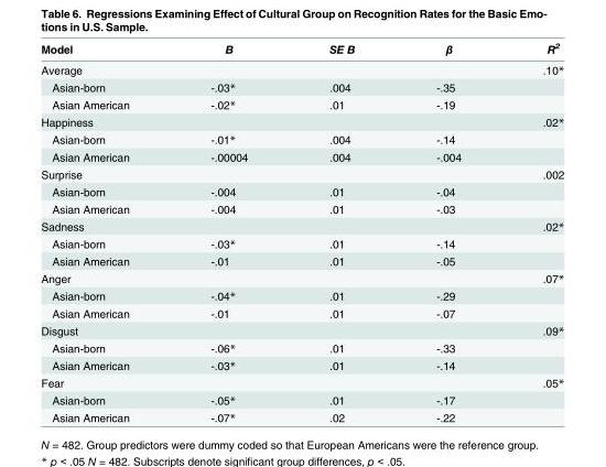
<table><thead><tr><td>Model</td><td>B</td><td>SE B</td><td>β</td><td>R<sup>2</sup></td></tr></thead><tbody><tr><td>Average</td><td></td><td></td><td></td><td>.10*</td></tr><tr><td>Asian-born</td><td>-.03*</td><td>.004</td><td>-.35</td><td></td></tr><tr><td>Asian American</td><td>-.02*</td><td>.01</td><td>-.19</td><td></td></tr><tr><td>Happiness</td><td></td><td></td><td></td><td>.02*</td></tr><tr><td>Asian-born</td><td>-.01*</td><td>.004</td><td>-.14</td><td></td></tr><tr><td>Asian American</td><td>-.00004</td><td>.004</td><td>-.004</td><td></td></tr><tr><td>Surprise</td><td></td><td></td><td></td><td>.002</td></tr><tr><td>Asian-born</td><td>-.004</td><td>.01</td><td>-.04</td><td></td></tr><tr><td>Asian American</td><td>-.004</td><td>.01</td><td>-.03</td><td></td></tr><tr><td>Sadness</td><td></td><td></td><td></td><td>.02*</td></tr><tr><td>Asian-born</td><td>-.03*</td><td>.01</td><td>-.14</td><td></td></tr><tr><td>Asian American</td><td>-.01</td><td>.01</td><td>-.05</td><td></td></tr><tr><td>Anger</td><td></td><td></td><td></td><td>.07*</td></tr><tr><td>Asian-born</td><td>-.04*</td><td>.01</td><td>-.29</td><td></td></tr><tr><td>Asian American</td><td>-.01</td><td>.01</td><td>-.07</td><td></td></tr><tr><td>Disgust</td><td></td><td></td><td></td><td>.09*</td></tr><tr><td>Asian-born</td><td>-.06*</td><td>.01</td><td>-.33</td><td></td></tr><tr><td>Asian American</td><td>-.03*</td><td>.01</td><td>-.14</td><td></td></tr><tr><td>Fear</td><td></td><td></td><td></td><td>.05*</td></tr><tr><td>Asian-born</td><td>-.05*</td><td>.01</td><td>-.17</td><td></td></tr><tr><td>Asian American</td><td>-.07*</td><td>.02</td><td>-.22</td><td></td></tr></tbody></table>